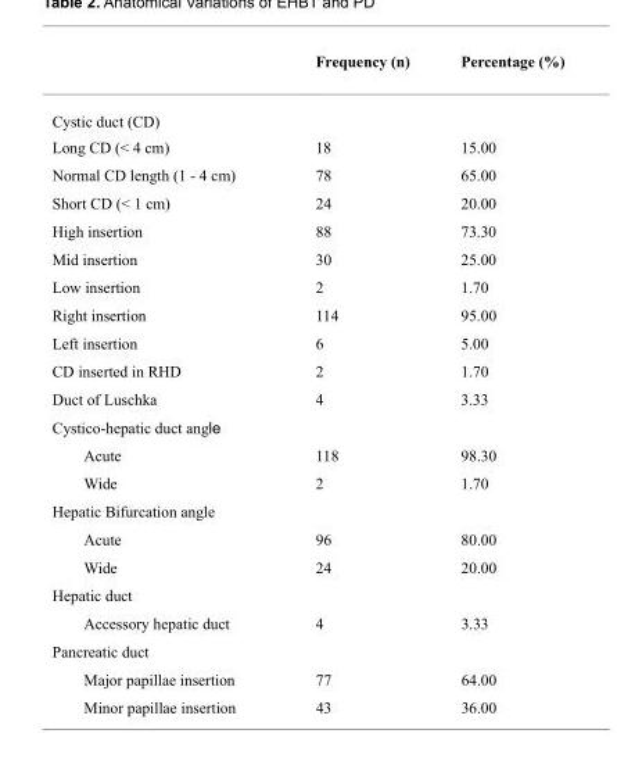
<table><thead><tr><td></td><td>Frequency (n)</td><td>Percentage (%)</td></tr></thead><tbody><tr><td colspan="3">Cystic duct (CD)</td></tr><tr><td>Long CD (&lt; 4 cm)</td><td>18</td><td>15.00</td></tr><tr><td>Normal CD length (1 - 4 cm)</td><td>78</td><td>65.00</td></tr><tr><td>Short CD (&lt; 1 cm)</td><td>24</td><td>20.00</td></tr><tr><td>High insertion</td><td>88</td><td>73.30</td></tr><tr><td>Mid insertion</td><td>30</td><td>25.00</td></tr><tr><td>Low insertion</td><td>2</td><td>1.70</td></tr><tr><td>Right insertion</td><td>114</td><td>95.00</td></tr><tr><td>Left insertion</td><td>6</td><td>5.00</td></tr><tr><td>CD inserted in RHD</td><td>2</td><td>1.70</td></tr><tr><td>Duct of Luschka</td><td>4</td><td>3.33</td></tr><tr><td colspan="3">Cystico-hepatic duct angle</td></tr><tr><td>Acute</td><td>118</td><td>98.30</td></tr><tr><td>Wide</td><td>2</td><td>1.70</td></tr><tr><td colspan="3">Hepatic Bifurcation angle</td></tr><tr><td>Acute</td><td>96</td><td>80.00</td></tr><tr><td>Wide</td><td>24</td><td>20.00</td></tr><tr><td colspan="3">Hepatic duct</td></tr><tr><td>Accessory hepatic duct</td><td>4</td><td>3.33</td></tr><tr><td colspan="3">Pancreatic duct</td></tr><tr><td>Major papillae insertion</td><td>77</td><td>64.00</td></tr><tr><td>Minor papillae insertion</td><td>43</td><td>36.00</td></tr></tbody></table>